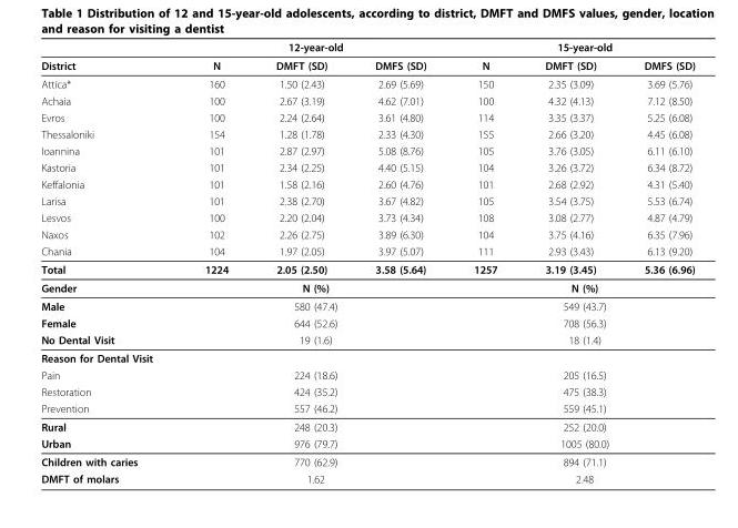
<table><thead><tr><td rowspan="2">District</td><td colspan="3">12-year-old</td><td colspan="3">15-year-old</td></tr><tr><td>N</td><td>DMFT (SD)</td><td>DMFS (SD)</td><td>N</td><td>DMFT (SD)</td><td>DMFS (SD)</td></tr></thead><tbody><tr><td>Attica*</td><td>160</td><td>1.50 (2.43)</td><td>2.69 (5.69)</td><td>150</td><td>2.35 (3.09)</td><td>3.69 (5.76)</td></tr><tr><td>Achaia</td><td>100</td><td>2.67 (3.19)</td><td>4.62 (7.01)</td><td>100</td><td>4.32 (4.13)</td><td>7.12 (8.50)</td></tr><tr><td>Evros</td><td>100</td><td>2.24 (2.64)</td><td>3.61 (4.80)</td><td>114</td><td>3.35 (3.37)</td><td>5.25 (6.08)</td></tr><tr><td>Thessaloniki</td><td>154</td><td>1.28 (1.78)</td><td>2.33 (4.30)</td><td>155</td><td>2.66 (3.20)</td><td>4.45 (6.08)</td></tr><tr><td>Ioannina</td><td>101</td><td>2.87 (2.97)</td><td>5.08 (8.76)</td><td>105</td><td>3.76 (3.05)</td><td>6.11 (6.10)</td></tr><tr><td>Kastoria</td><td>101</td><td>2.34 (2.25)</td><td>4.40 (5.15)</td><td>104</td><td>3.26 (3.72)</td><td>6.34 (8.72)</td></tr><tr><td>Keffalonia</td><td>101</td><td>1.58 (2.16)</td><td>2.60 (4.76)</td><td>101</td><td>2.68 (2.92)</td><td>4.31 (5.40)</td></tr><tr><td>Larisa</td><td>101</td><td>2.38 (2.70)</td><td>3.67 (4.82)</td><td>105</td><td>3.54 (3.75)</td><td>5.53 (6.74)</td></tr><tr><td>Lesvos</td><td>100</td><td>2.20 (2.04)</td><td>3.73 (4.34)</td><td>108</td><td>3.08 (2.77)</td><td>4.87 (4.79)</td></tr><tr><td>Naxos</td><td>102</td><td>2.26 (2.75)</td><td>3.89 (6.30)</td><td>104</td><td>3.75 (4.16)</td><td>6.35 (7.96)</td></tr><tr><td>Chania</td><td>104</td><td>1.97 (2.05)</td><td>3.97 (5.07)</td><td>111</td><td>2.93 (3.43)</td><td>6.13 (9.20)</td></tr><tr><td>Total</td><td>1224</td><td>2.05 (2.50)</td><td>3.58 (5.64)</td><td>1257</td><td>3.19 (3.45)</td><td>5.36 (6.96)</td></tr><tr><td>Gender</td><td colspan="3">N (%)</td><td colspan="3">N (%)</td></tr><tr><td>Male</td><td colspan="3">580 (47.4)</td><td colspan="3">549 (43.7)</td></tr><tr><td>Female</td><td colspan="3">644 (52.6)</td><td colspan="3">708 (56.3)</td></tr><tr><td>No Dental Visit</td><td colspan="3">19 (1.6)</td><td colspan="3">18 (1.4)</td></tr><tr><td colspan="7">Reason for Dental Visit</td></tr><tr><td>Pain</td><td colspan="3">224 (18.6)</td><td colspan="3">205 (16.5)</td></tr><tr><td>Restoration</td><td colspan="3">424 (35.2)</td><td colspan="3">475 (38.3)</td></tr><tr><td>Prevention</td><td colspan="3">557 (46.2)</td><td colspan="3">559 (45.1)</td></tr><tr><td>Rural</td><td colspan="3">248 (20.3)</td><td colspan="3">252 (20.0)</td></tr><tr><td>Urban</td><td colspan="3">976 (79.7)</td><td colspan="3">1005 (80.0)</td></tr><tr><td>Children with caries</td><td colspan="3">770 (62.9)</td><td colspan="3">894 (71.1)</td></tr><tr><td>DMFT of molars</td><td colspan="3">1.62</td><td colspan="3">2.48</td></tr></tbody></table>